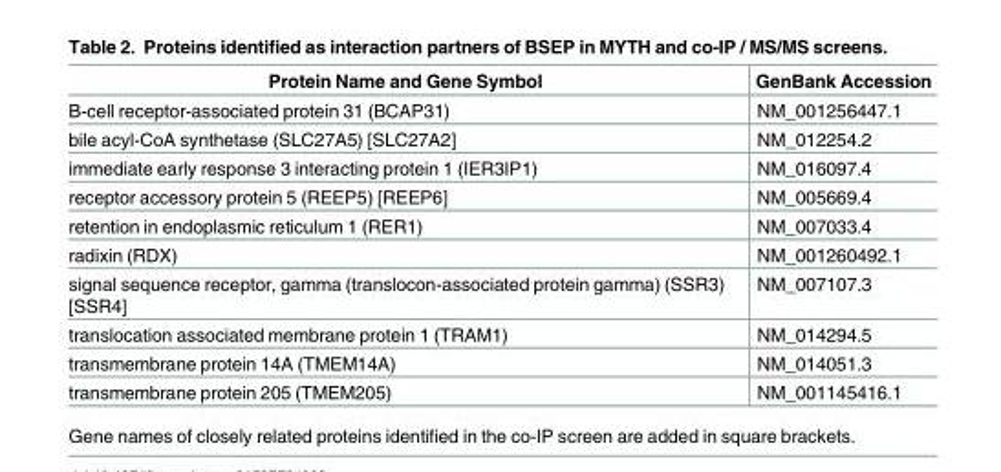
<table><thead><tr><td>Protein Name and Gene Symbol</td><td>GenBank Accession</td></tr></thead><tbody><tr><td>B-cell receptor-associated protein 31 (BCAP31)</td><td>NM_001256447.1</td></tr><tr><td>bile acyl-CoA synthetase (SLC27A5) [SLC27A2]</td><td>NM_012254.2</td></tr><tr><td>immediate early response 3 interacting protein 1 (IER3IP1)</td><td>NM_016097.4</td></tr><tr><td>receptor accessory protein 5 (REEP5) [REEP6]</td><td>NM_005669.4</td></tr><tr><td>retention in endoplasmic reticulum 1 (RER1)</td><td>NM_007033.4</td></tr><tr><td>radixin (RDX)</td><td>NM_001260492.1</td></tr><tr><td>signal sequence receptor, gamma (translocon-associated protein gamma) (SSR3) [SSR4]</td><td>NM_007107.3</td></tr><tr><td>translocation associated membrane protein 1 (TRAM1)</td><td>NM_014294.5</td></tr><tr><td>transmembrane protein 14A (TMEM14A)</td><td>NM_014051.3</td></tr><tr><td>transmembrane protein 205 (TMEM205)</td><td>NM_001145416.1</td></tr></tbody></table>